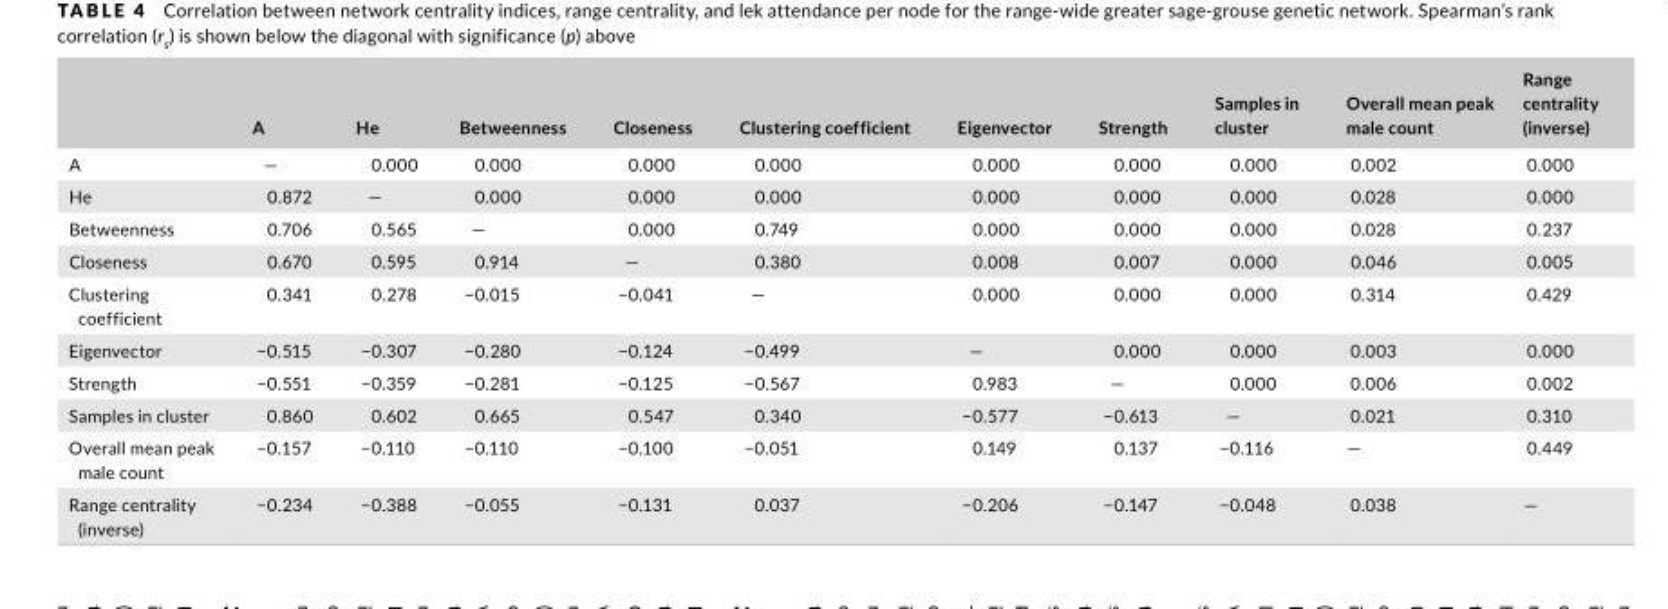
<table><thead><tr><td></td><td>A</td><td>He</td><td>Betweenness</td><td>Closeness</td><td>Clustering coefficient</td><td>Eigenvector</td><td>Strength</td><td>Samples in cluster</td><td>Overall mean peak male count</td><td>Range centrality (inverse)</td></tr></thead><tbody><tr><td>A</td><td>―</td><td>0.000</td><td>0.000</td><td>0.000</td><td>0.000</td><td>0.000</td><td>0.000</td><td>0.000</td><td>0.002</td><td>0.000</td></tr><tr><td>He</td><td>0.872</td><td>―</td><td>0.000</td><td>0.000</td><td>0.000</td><td>0.000</td><td>0.000</td><td>0.000</td><td>0.028</td><td>0.000</td></tr><tr><td>Betweenness</td><td>0.706</td><td>0.565</td><td>―</td><td>0.000</td><td>0.749</td><td>0.000</td><td>0.000</td><td>0.000</td><td>0.028</td><td>0.237</td></tr><tr><td>Closeness</td><td>0.670</td><td>0.595</td><td>0.914</td><td>―</td><td>0.380</td><td>0.008</td><td>0.007</td><td>0.000</td><td>0.046</td><td>0.005</td></tr><tr><td>Clustering coefficient</td><td>0.341</td><td>0.278</td><td>−0.015</td><td>−0.041</td><td>―</td><td>0.000</td><td>0.000</td><td>0.000</td><td>0.314</td><td>0.429</td></tr><tr><td>Eigenvector</td><td>−0.515</td><td>−0.307</td><td>−0.280</td><td>−0.124</td><td>−0.499</td><td>―</td><td>0.000</td><td>0.000</td><td>0.003</td><td>0.000</td></tr><tr><td>Strength</td><td>−0.551</td><td>−0.359</td><td>−0.281</td><td>−0.125</td><td>−0.567</td><td>0.983</td><td>―</td><td>0.000</td><td>0.006</td><td>0.002</td></tr><tr><td>Samples in cluster</td><td>0.860</td><td>0.602</td><td>0.665</td><td>0.547</td><td>0.340</td><td>−0.577</td><td>−0.613</td><td>―</td><td>0.021</td><td>0.310</td></tr><tr><td>Overall mean peak male count</td><td>−0.157</td><td>−0.110</td><td>−0.110</td><td>−0.100</td><td>−0.051</td><td>0.149</td><td>0.137</td><td>−0.116</td><td>―</td><td>0.449</td></tr><tr><td>Range centrality (inverse)</td><td>−0.234</td><td>−0.388</td><td>−0.055</td><td>−0.131</td><td>0.037</td><td>−0.206</td><td>−0.147</td><td>−0.048</td><td>0.038</td><td>―</td></tr></tbody></table>